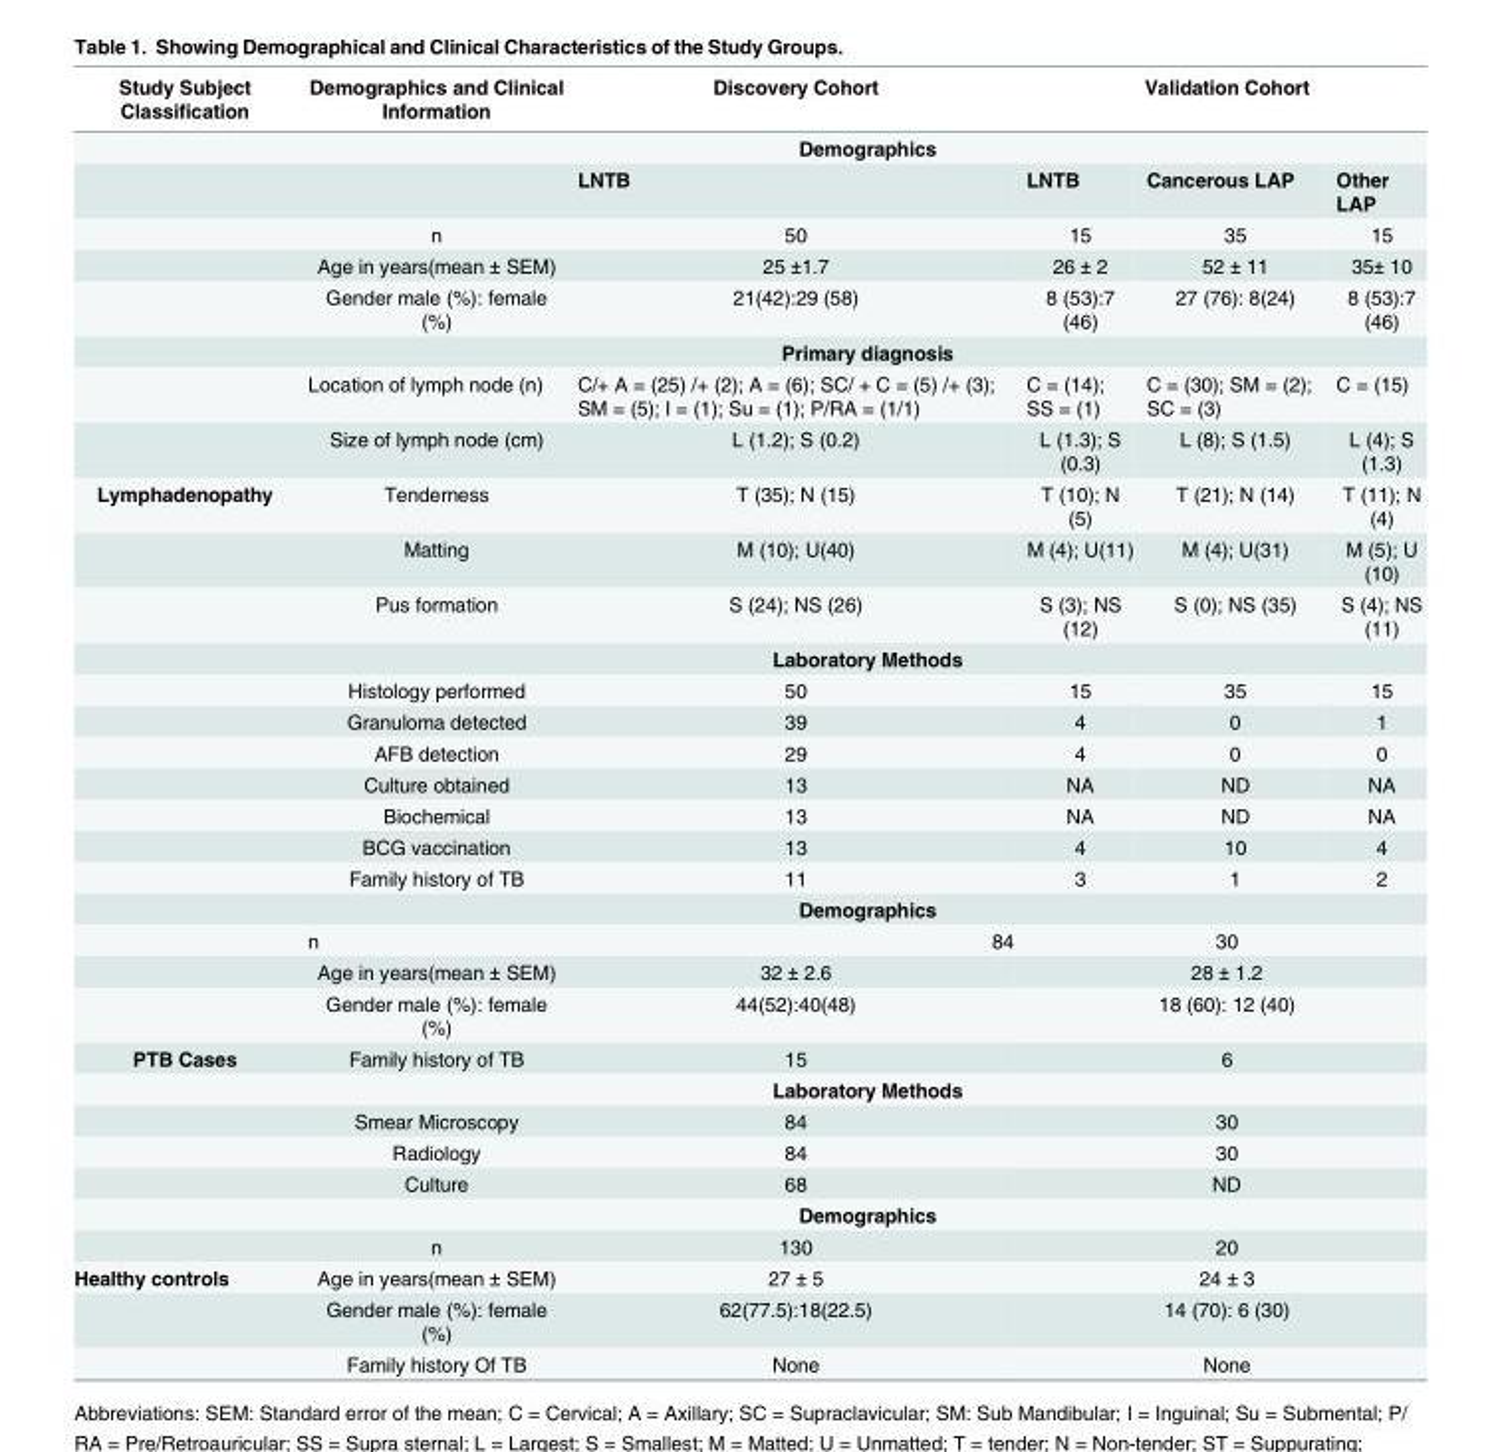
<table><thead><tr><td rowspan="3">Study Subject Classification</td><td>Demographics and Clinical Information</td><td>Discovery Cohort</td><td colspan="3">Validation Cohort</td></tr><tr><td colspan="5">Demographics</td></tr><tr><td></td><td>LNTB</td><td>LNTB</td><td>Cancerous LAP</td><td>Other LAP</td></tr></thead><tbody><tr><td></td><td>n</td><td>50</td><td>15</td><td>35</td><td>15</td></tr><tr><td></td><td>Age in years(mean ± SEM)</td><td>25 ±1.7</td><td>26 ± 2</td><td>52 ± 11</td><td>35± 10</td></tr><tr><td></td><td>Gender male (%): female (%)</td><td>21(42):29 (58)</td><td>8 (53):7 (46)</td><td>27 (76): 8(24)</td><td>8 (53):7 (46)</td></tr><tr><td></td><td colspan="5">Primary diagnosis</td></tr><tr><td></td><td>Location of lymph node (n)</td><td>C/+ A = (25) /+ (2); A = (6); SC/ + C = (5) /+ (3); SM = (5); I = (1); Su = (1); P/RA = (1/1)</td><td>C = (14); SS = (1)</td><td>C = (30); SM = (2); SC = (3)</td><td>C = (15)</td></tr><tr><td></td><td>Size of lymph node (cm)</td><td>L (1.2); S (0.2)</td><td>L (1.3); S (0.3)</td><td>L (8); S (1.5)</td><td>L (4); S (1.3)</td></tr><tr><td rowspan="15">Lymphadenopathy</td><td>Tenderness</td><td>T (35); N (15)</td><td>T (10); N (5)</td><td>T (21); N (14)</td><td>T (11); N (4)</td></tr><tr><td>Matting</td><td>M (10); U(40)</td><td>M (4); U(11)</td><td>M (4); U(31)</td><td>M (5); U (10)</td></tr><tr><td>Pus formation</td><td>S (24); NS (26)</td><td>S (3); NS (12)</td><td>S (0); NS (35)</td><td>S (4); NS (11)</td></tr><tr><td colspan="5">Laboratory Methods</td></tr><tr><td>Histology performed</td><td>50</td><td>15</td><td>35</td><td>15</td></tr><tr><td>Granuloma detected</td><td>39</td><td>4</td><td>0</td><td>1</td></tr><tr><td>AFB detection</td><td>29</td><td>4</td><td>0</td><td>0</td></tr><tr><td>Culture obtained</td><td>13</td><td>NA</td><td>ND</td><td>NA</td></tr><tr><td>Biochemical</td><td>13</td><td>NA</td><td>ND</td><td>NA</td></tr><tr><td>BCG vaccination</td><td>13</td><td>4</td><td>10</td><td>4</td></tr><tr><td>Family history of TB</td><td>11</td><td>3</td><td>1</td><td>2</td></tr><tr><td colspan="5">Demographics</td></tr><tr><td>n</td><td>84</td><td colspan="3">30</td></tr><tr><td>Age in years(mean ± SEM)</td><td>32 ± 2.6</td><td colspan="3">28 ± 1.2</td></tr><tr><td>Gender male (%): female (%)</td><td>44(52):40(48)</td><td colspan="3">18 (60): 12 (40)</td></tr><tr><td rowspan="7">PTB Cases</td><td>Family history of TB</td><td>15</td><td colspan="3">6</td></tr><tr><td colspan="5">Laboratory Methods</td></tr><tr><td>Smear Microscopy</td><td>84</td><td colspan="3">30</td></tr><tr><td>Radiology</td><td>84</td><td colspan="3">30</td></tr><tr><td>Culture</td><td>68</td><td colspan="3">ND</td></tr><tr><td colspan="5">Demographics</td></tr><tr><td>n</td><td>130</td><td colspan="3">20</td></tr><tr><td rowspan="3">Healthy controls</td><td>Age in years(mean ± SEM)</td><td>27 ± 5</td><td colspan="3">24 ± 3</td></tr><tr><td>Gender male (%): female (%)</td><td>62(77.5):18(22.5)</td><td colspan="3">14 (70): 6 (30)</td></tr><tr><td>Family history Of TB</td><td>None</td><td colspan="3">None</td></tr></tbody></table>